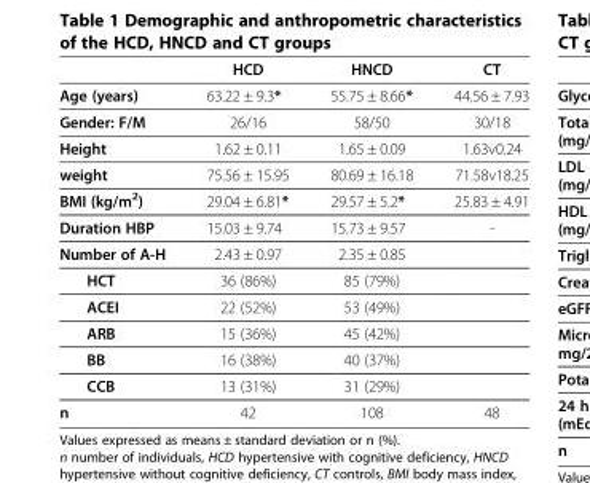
<table><thead><tr><td></td><td>HCD</td><td>HNCD</td><td>CT</td></tr></thead><tbody><tr><td>Age (years)</td><td>63.22 ± 9.3*</td><td>55.75 ± 8.66*</td><td>44.56 ± 7.93</td></tr><tr><td>Gender: F/M</td><td>26/16</td><td>58/50</td><td>30/18</td></tr><tr><td>Height</td><td>1.62 ± 0.11</td><td>1.65 ± 0.09</td><td>1.63v0.24</td></tr><tr><td>weight</td><td>75.56 ± 15.95</td><td>80.69 ± 16.18</td><td>71.58v18.25</td></tr><tr><td>BMI (kg/m<sup>2</sup>)</td><td>29.04 ± 6.81*</td><td>29.57 ± 5.2*</td><td>25.83 ± 4.91</td></tr><tr><td>Duration HBP</td><td>15.03 ± 9.74</td><td>15.73 ± 9.57</td><td>-</td></tr><tr><td>Number of A-H</td><td>2.43 ± 0.97</td><td>2.35 ± 0.85</td><td></td></tr><tr><td>HCT</td><td>36 (86%)</td><td>85 (79%)</td><td></td></tr><tr><td>ACEI</td><td>22 (52%)</td><td>53 (49%)</td><td></td></tr><tr><td>ARB</td><td>15 (36%)</td><td>45 (42%)</td><td></td></tr><tr><td>BB</td><td>16 (38%)</td><td>40 (37%)</td><td></td></tr><tr><td>CCB</td><td>13 (31%)</td><td>31 (29%)</td><td></td></tr><tr><td>n</td><td>42</td><td>108</td><td>48</td></tr></tbody></table>